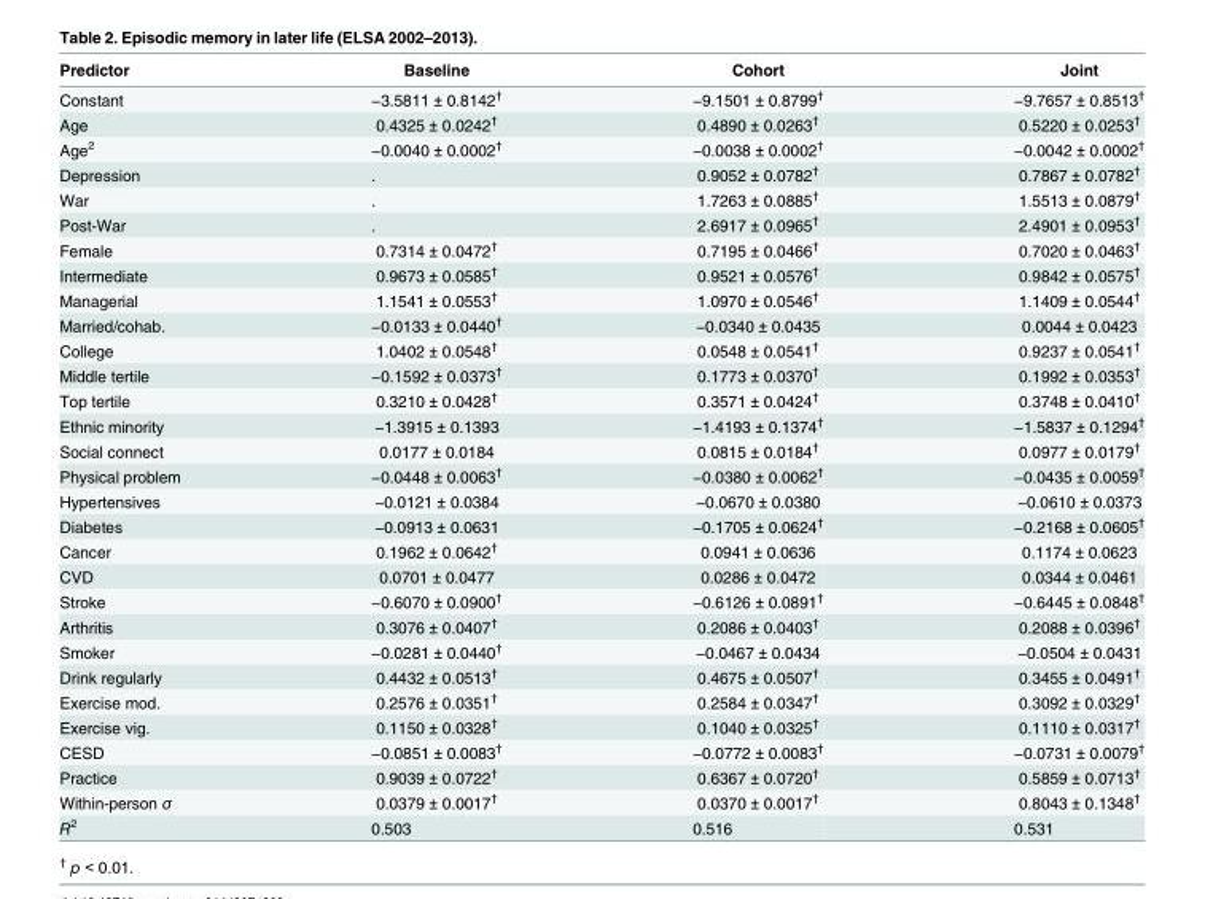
<table><thead><tr><td>Predictor</td><td>Baseline</td><td>Cohort</td><td>Joint</td></tr></thead><tbody><tr><td>Constant</td><td>−3.5811 ± 0.8142<sup>†</sup></td><td>−9.1501 ± 0.8799<sup>†</sup></td><td>−9.7657 ± 0.8513<sup>†</sup></td></tr><tr><td>Age</td><td>0.4325 ± 0.0242<sup>†</sup></td><td>0.4890 ± 0.0263<sup>†</sup></td><td>0.5220 ± 0.0253<sup>†</sup></td></tr><tr><td>Age<sup>2</sup></td><td>−0.0040 ± 0.0002<sup>†</sup></td><td>−0.0038 ± 0.0002<sup>†</sup></td><td>−0.0042 ± 0.0002<sup>†</sup></td></tr><tr><td>Depression</td><td>.</td><td>0.9052 ± 0.0782<sup>†</sup></td><td>0.7867 ± 0.0782<sup>†</sup></td></tr><tr><td>War</td><td>.</td><td>1.7263 ± 0.0885<sup>†</sup></td><td>1.5513 ± 0.0879<sup>†</sup></td></tr><tr><td>Post-War</td><td>.</td><td>2.6917 ± 0.0965<sup>†</sup></td><td>2.4901 ± 0.0953<sup>†</sup></td></tr><tr><td>Female</td><td>0.7314 ± 0.0472<sup>†</sup></td><td>0.7195 ± 0.0466<sup>†</sup></td><td>0.7020 ± 0.0463<sup>†</sup></td></tr><tr><td>Intermediate</td><td>0.9673 ± 0.0585<sup>†</sup></td><td>0.9521 ± 0.0576<sup>†</sup></td><td>0.9842 ± 0.0575<sup>†</sup></td></tr><tr><td>Managerial</td><td>1.1541 ± 0.0553<sup>†</sup></td><td>1.0970 ± 0.0546<sup>†</sup></td><td>1.1409 ± 0.0544<sup>†</sup></td></tr><tr><td>Married/cohab.</td><td>−0.0133 ± 0.0440<sup>†</sup></td><td>−0.0340 ± 0.0435</td><td>0.0044 ± 0.0423</td></tr><tr><td>College</td><td>1.0402 ± 0.0548<sup>†</sup></td><td>0.0548 ± 0.0541<sup>†</sup></td><td>0.9237 ± 0.0541<sup>†</sup></td></tr><tr><td>Middle tertile</td><td>−0.1592 ± 0.0373<sup>†</sup></td><td>0.1773 ± 0.0370<sup>†</sup></td><td>0.1992 ± 0.0353<sup>†</sup></td></tr><tr><td>Top tertile</td><td>0.3210 ± 0.0428<sup>†</sup></td><td>0.3571 ± 0.0424<sup>†</sup></td><td>0.3748 ± 0.0410<sup>†</sup></td></tr><tr><td>Ethnic minority</td><td>−1.3915 ± 0.1393</td><td>−1.4193 ± 0.1374<sup>†</sup></td><td>−1.5837 ± 0.1294<sup>†</sup></td></tr><tr><td>Social connect</td><td>0.0177 ± 0.0184</td><td>0.0815 ± 0.0184<sup>†</sup></td><td>0.0977 ± 0.0179<sup>†</sup></td></tr><tr><td>Physical problem</td><td>−0.0448 ± 0.0063<sup>†</sup></td><td>−0.0380 ± 0.0062<sup>†</sup></td><td>−0.0435 ± 0.0059<sup>†</sup></td></tr><tr><td>Hypertensives</td><td>−0.0121 ± 0.0384</td><td>−0.0670 ± 0.0380</td><td>−0.0610 ± 0.0373</td></tr><tr><td>Diabetes</td><td>−0.0913 ± 0.0631</td><td>−0.1705 ± 0.0624<sup>†</sup></td><td>−0.2168 ± 0.0605<sup>†</sup></td></tr><tr><td>Cancer</td><td>0.1962 ± 0.0642<sup>†</sup></td><td>0.0941 ± 0.0636</td><td>0.1174 ± 0.0623</td></tr><tr><td>CVD</td><td>0.0701 ± 0.0477</td><td>0.0286 ± 0.0472</td><td>0.0344 ± 0.0461</td></tr><tr><td>Stroke</td><td>−0.6070 ± 0.0900<sup>†</sup></td><td>−0.6126 ± 0.0891<sup>†</sup></td><td>−0.6445 ± 0.0848<sup>†</sup></td></tr><tr><td>Arthritis</td><td>0.3076 ± 0.0407<sup>†</sup></td><td>0.2086 ± 0.0403<sup>†</sup></td><td>0.2088 ± 0.0396<sup>†</sup></td></tr><tr><td>Smoker</td><td>−0.0281 ± 0.0440<sup>†</sup></td><td>−0.0467 ± 0.0434</td><td>−0.0504 ± 0.0431</td></tr><tr><td>Drink regularly</td><td>0.4432 ± 0.0513<sup>†</sup></td><td>0.4675 ± 0.0507<sup>†</sup></td><td>0.3455 ± 0.0491<sup>†</sup></td></tr><tr><td>Exercise mod.</td><td>0.2576 ± 0.0351<sup>†</sup></td><td>0.2584 ± 0.0347<sup>†</sup></td><td>0.3092 ± 0.0329<sup>†</sup></td></tr><tr><td>Exercise vig.</td><td>0.1150 ± 0.0328<sup>†</sup></td><td>0.1040 ± 0.0325<sup>†</sup></td><td>0.1110 ± 0.0317<sup>†</sup></td></tr><tr><td>CESD</td><td>−0.0851 ± 0.0083<sup>†</sup></td><td>−0.0772 ± 0.0083<sup>†</sup></td><td>−0.0731 ± 0.0079<sup>†</sup></td></tr><tr><td>Practice</td><td>0.9039 ± 0.0722<sup>†</sup></td><td>0.6367 ± 0.0720<sup>†</sup></td><td>0.5859 ± 0.0713<sup>†</sup></td></tr><tr><td>Within-person σ</td><td>0.0379 ± 0.0017<sup>†</sup></td><td>0.0370 ± 0.0017<sup>†</sup></td><td>0.8043 ± 0.1348<sup>†</sup></td></tr><tr><td>R<sup>2</sup></td><td>0.503</td><td>0.516</td><td>0.531</td></tr></tbody></table>